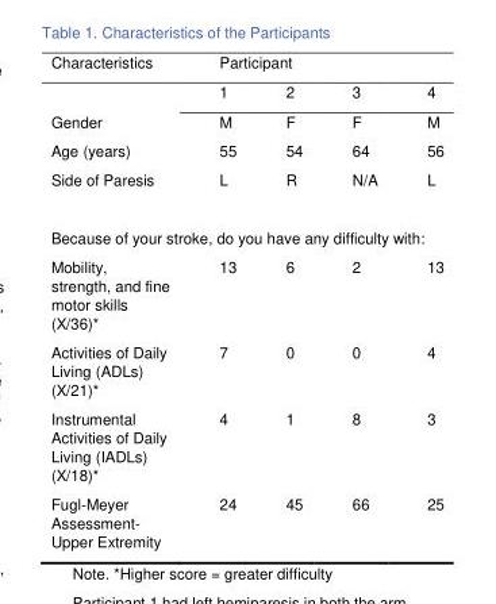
<table><thead><tr><td rowspan="2">Characteristics</td><td colspan="4">Participant</td></tr><tr><td>1</td><td>2</td><td>3</td><td>4</td></tr></thead><tbody><tr><td>Gender</td><td>M</td><td>F</td><td>F</td><td>M</td></tr><tr><td>Age (years)</td><td>55</td><td>54</td><td>64</td><td>56</td></tr><tr><td>Side of Paresis</td><td>L</td><td>R</td><td>N/A</td><td>L</td></tr><tr><td colspan="5">Because of your stroke, do you have any difficulty with:</td></tr><tr><td>Mobility, strength, and fine motor skills (X/36)*</td><td>13</td><td>6</td><td>2</td><td>13</td></tr><tr><td>Activities of Daily Living (ADLs) (X/21)*</td><td>7</td><td>0</td><td>0</td><td>4</td></tr><tr><td>Instrumental Activities of Daily Living (IADLs) (X/18)*</td><td>4</td><td>1</td><td>8</td><td>3</td></tr><tr><td>Fugl-Meyer Assessment- Upper Extremity</td><td>24</td><td>45</td><td>66</td><td>25</td></tr></tbody></table>